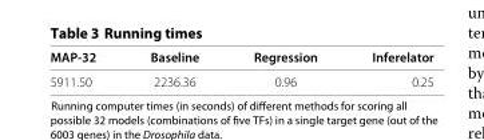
<table><thead><tr><td>MAP-32</td><td>Baseline</td><td>Regression</td><td>Inferelator</td></tr></thead><tbody><tr><td>5911.50</td><td>2236.36</td><td>0.96</td><td>0.25</td></tr></tbody></table>